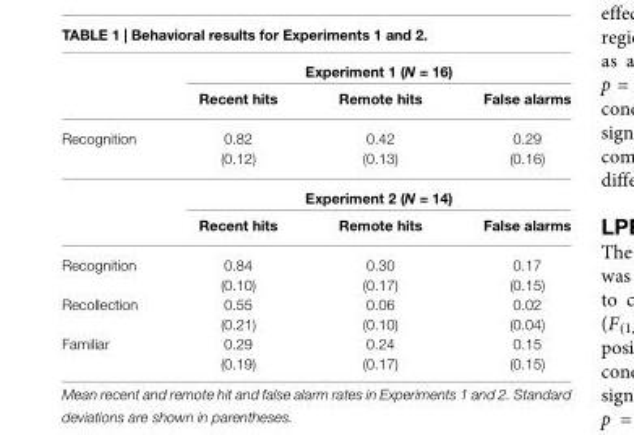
<table><thead><tr><td rowspan="2"></td><td colspan="3">Experiment 1 (N = 16)</td></tr><tr><td>Recent hits</td><td>Remote hits</td><td>False alarms</td></tr></thead><tbody><tr><td rowspan="4">Recognition</td><td>0.82</td><td>0.42</td><td>0.29</td></tr><tr><td>(0.12)</td><td>(0.13)</td><td>(0.16)</td></tr><tr><td colspan="3">Experiment 2 (N = 14)</td></tr><tr><td>Recent hits</td><td>Remote hits</td><td>False alarms</td></tr><tr><td rowspan="2">Recognition</td><td>0.84</td><td>0.30</td><td>0.17</td></tr><tr><td>(0.10)</td><td>(0.17)</td><td>(0.15)</td></tr><tr><td rowspan="2">Recollection</td><td>0.55</td><td>0.06</td><td>0.02</td></tr><tr><td>(0.21)</td><td>(0.10)</td><td>(0.04)</td></tr><tr><td rowspan="2">Familiar</td><td>0.29</td><td>0.24</td><td>0.15</td></tr><tr><td>(0.19)</td><td>(0.17)</td><td>(0.15)</td></tr></tbody></table>